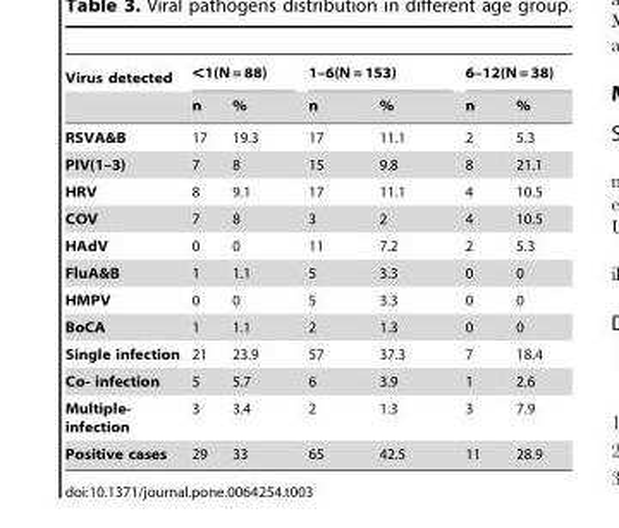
<table><thead><tr><td rowspan="2">Virus detected</td><td colspan="2">&lt;1(N = 88)</td><td colspan="2">1–6(N = 153)</td><td colspan="2">6–12(N = 38)</td></tr><tr><td>n</td><td>%</td><td>n</td><td>%</td><td>n</td><td>%</td></tr></thead><tbody><tr><td>RSVA&amp;B</td><td>17</td><td>19.3</td><td>17</td><td>11.1</td><td>2</td><td>5.3</td></tr><tr><td>PIV(1–3)</td><td>7</td><td>8</td><td>15</td><td>9.8</td><td>8</td><td>21.1</td></tr><tr><td>HRV</td><td>8</td><td>9.1</td><td>17</td><td>11.1</td><td>4</td><td>10.5</td></tr><tr><td>COV</td><td>7</td><td>8</td><td>3</td><td>2</td><td>4</td><td>10.5</td></tr><tr><td>HAdV</td><td>0</td><td>0</td><td>11</td><td>7.2</td><td>2</td><td>5.3</td></tr><tr><td>FluA&amp;B</td><td>1</td><td>1.1</td><td>5</td><td>3.3</td><td>0</td><td>0</td></tr><tr><td>HMPV</td><td>0</td><td>0</td><td>5</td><td>3.3</td><td>0</td><td>0</td></tr><tr><td>BoCA</td><td>1</td><td>1.1</td><td>2</td><td>1.3</td><td>0</td><td>0</td></tr><tr><td>Single infection</td><td>21</td><td>23.9</td><td>57</td><td>37.3</td><td>7</td><td>18.4</td></tr><tr><td>Co- infection</td><td>5</td><td>5.7</td><td>6</td><td>3.9</td><td>1</td><td>2.6</td></tr><tr><td>Multiple- infection</td><td>3</td><td>3.4</td><td>2</td><td>1.3</td><td>3</td><td>7.9</td></tr><tr><td>Positive cases</td><td>29</td><td>33</td><td>65</td><td>42.5</td><td>11</td><td>28.9</td></tr></tbody></table>